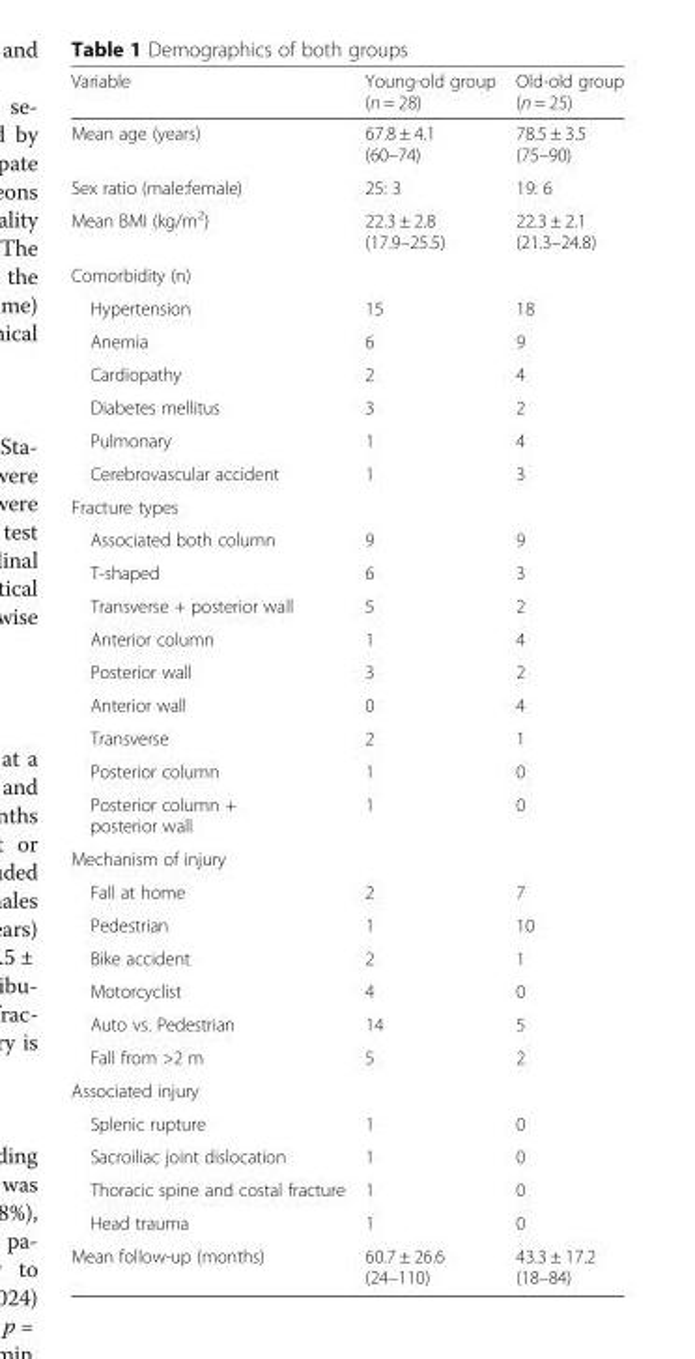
<table><thead><tr><td>Variable</td><td>Young-old group (n = 28)</td><td>Old-old group (n = 25)</td></tr></thead><tbody><tr><td>Mean age (years)</td><td>67.8 ± 4.1 (60–74)</td><td>78.5 ± 3.5 (75–90)</td></tr><tr><td>Sex ratio (male:female)</td><td>25: 3</td><td>19: 6</td></tr><tr><td>Mean BMI (kg/m<sup>2</sup>)</td><td>22.3 ± 2.8 (17.9–25.5)</td><td>22.3 ± 2.1 (21.3–24.8)</td></tr><tr><td colspan="3">Comorbidity (n)</td></tr><tr><td>Hypertension</td><td>15</td><td>18</td></tr><tr><td>Anemia</td><td>6</td><td>9</td></tr><tr><td>Cardiopathy</td><td>2</td><td>4</td></tr><tr><td>Diabetes mellitus</td><td>3</td><td>2</td></tr><tr><td>Pulmonary</td><td>1</td><td>4</td></tr><tr><td>Cerebrovascular accident</td><td>1</td><td>3</td></tr><tr><td colspan="3">Fracture types</td></tr><tr><td>Associated both column</td><td>9</td><td>9</td></tr><tr><td>T-shaped</td><td>6</td><td>3</td></tr><tr><td>Transverse + posterior wall</td><td>5</td><td>2</td></tr><tr><td>Anterior column</td><td>1</td><td>4</td></tr><tr><td>Posterior wall</td><td>3</td><td>2</td></tr><tr><td>Anterior wall</td><td>0</td><td>4</td></tr><tr><td>Transverse</td><td>2</td><td>1</td></tr><tr><td>Posterior column</td><td>1</td><td>0</td></tr><tr><td>Posterior column + posterior wall</td><td>1</td><td>0</td></tr><tr><td colspan="3">Mechanism of injury</td></tr><tr><td>Fall at home</td><td>2</td><td>7</td></tr><tr><td>Pedestrian</td><td>1</td><td>10</td></tr><tr><td>Bike accident</td><td>2</td><td>1</td></tr><tr><td>Motorcyclist</td><td>4</td><td>0</td></tr><tr><td>Auto vs. Pedestrian</td><td>14</td><td>5</td></tr><tr><td>Fall from &gt;2 m</td><td>5</td><td>2</td></tr><tr><td colspan="3">Associated injury</td></tr><tr><td>Splenic rupture</td><td>1</td><td>0</td></tr><tr><td>Sacroiliac joint dislocation</td><td>1</td><td>0</td></tr><tr><td>Thoracic spine and costal fracture</td><td>1</td><td>0</td></tr><tr><td>Head trauma</td><td>1</td><td>0</td></tr><tr><td>Mean follow-up (months)</td><td>60.7 ± 26.6 (24–110)</td><td>43.3 ± 17.2 (18–84)</td></tr></tbody></table>